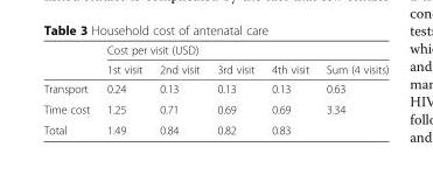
<table><thead><tr><td rowspan="2"></td><td colspan="5">Cost per visit (USD)</td></tr><tr><td>1st visit</td><td>2nd visit</td><td>3rd visit</td><td>4th visit</td><td>Sum (4 visits)</td></tr></thead><tbody><tr><td>Transport</td><td>0.24</td><td>0.13</td><td>0.13</td><td>0.13</td><td>0.63</td></tr><tr><td>Time cost</td><td>1.25</td><td>0.71</td><td>0.69</td><td>0.69</td><td>3.34</td></tr><tr><td>Total</td><td>1.49</td><td>0.84</td><td>0.82</td><td>0.83</td><td></td></tr></tbody></table>